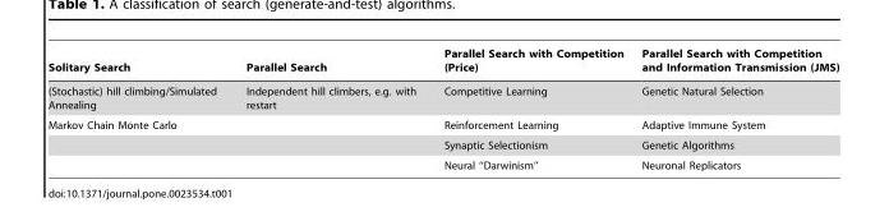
<table><thead><tr><td>Solitary Search</td><td>Parallel Search</td><td>Parallel Search with Competition (Price)</td><td>Parallel Search with Competition and Information Transmission (JMS)</td></tr></thead><tbody><tr><td>(Stochastic) hill climbing/Simulated Annealing</td><td>Independent hill climbers, e.g. with restart</td><td>Competitive Learning</td><td>Genetic Natural Selection</td></tr><tr><td rowspan="3">Markov Chain Monte Carlo</td><td></td><td>Reinforcement Learning</td><td>Adaptive Immune System</td></tr><tr><td></td><td>Synaptic Selectionism</td><td>Genetic Algorithms</td></tr><tr><td></td><td>Neural ‘‘Darwinism’’</td><td>Neuronal Replicators</td></tr></tbody></table>